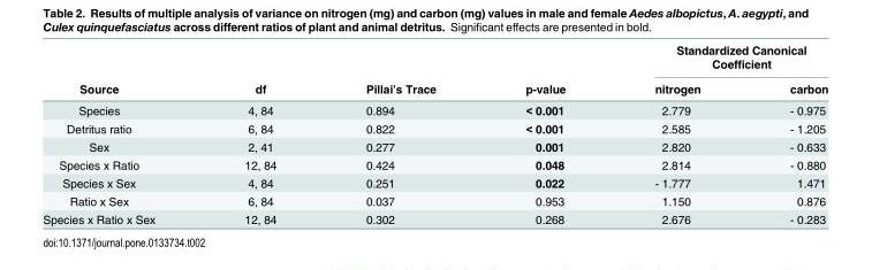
<table><thead><tr><td rowspan="2">Source</td><td rowspan="2">df</td><td rowspan="2">Pillai’s Trace</td><td rowspan="2">p-value</td><td colspan="2">Standardized Canonical Coefficient</td></tr><tr><td>nitrogen</td><td>carbon</td></tr></thead><tbody><tr><td>Species</td><td>4, 84</td><td>0.894</td><td>&lt; 0.001</td><td>2.779</td><td>- 0.975</td></tr><tr><td>Detritus ratio</td><td>6, 84</td><td>0.822</td><td>&lt; 0.001</td><td>2.585</td><td>- 1.205</td></tr><tr><td>Sex</td><td>2, 41</td><td>0.277</td><td>0.001</td><td>2.820</td><td>- 0.633</td></tr><tr><td>Species x Ratio</td><td>12, 84</td><td>0.424</td><td>0.048</td><td>2.814</td><td>- 0.880</td></tr><tr><td>Species x Sex</td><td>4, 84</td><td>0.251</td><td>0.022</td><td>- 1.777</td><td>1.471</td></tr><tr><td>Ratio x Sex</td><td>6, 84</td><td>0.037</td><td>0.953</td><td>1.150</td><td>0.876</td></tr><tr><td>Species x Ratio x Sex</td><td>12, 84</td><td>0.302</td><td>0.268</td><td>2.676</td><td>- 0.283</td></tr></tbody></table>